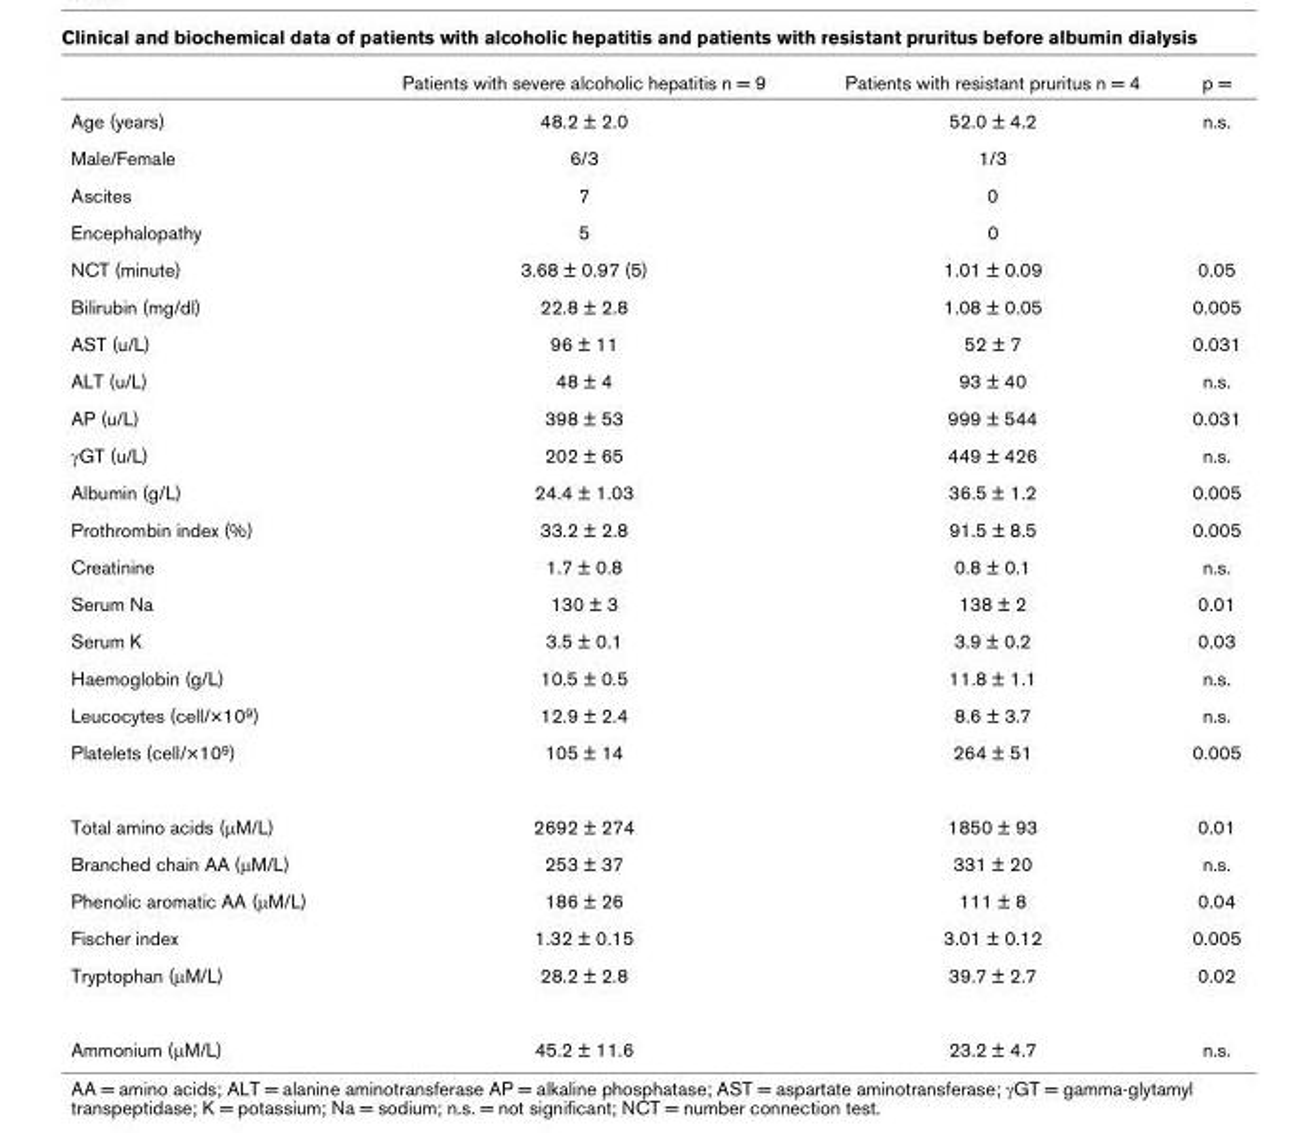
<table><thead><tr><td></td><td>Patients with severe alcoholic hepatitis n = 9</td><td>Patients with resistant pruritus n = 4</td><td>p =</td></tr></thead><tbody><tr><td>Age (years)</td><td>48.2 ± 2.0</td><td>52.0 ± 4.2</td><td>n.s.</td></tr><tr><td>Male/Female</td><td>6/3</td><td>1/3</td><td></td></tr><tr><td>Ascites</td><td>7</td><td>0</td><td></td></tr><tr><td>Encephalopathy</td><td>5</td><td>0</td><td></td></tr><tr><td>NCT (minute)</td><td>3.68 ± 0.97 (5)</td><td>1.01 ± 0.09</td><td>0.05</td></tr><tr><td>Bilirubin (mg/dl)</td><td>22.8 ± 2.8</td><td>1.08 ± 0.05</td><td>0.005</td></tr><tr><td>AST (u/L)</td><td>96 ± 11</td><td>52 ± 7</td><td>0.031</td></tr><tr><td>ALT (u/L)</td><td>48 ± 4</td><td>93 ± 40</td><td>n.s.</td></tr><tr><td>AP (u/L)</td><td>398 ± 53</td><td>999 ± 544</td><td>0.031</td></tr><tr><td>γGT (u/L)</td><td>202 ± 65</td><td>449 ± 426</td><td>n.s.</td></tr><tr><td>Albumin (g/L)</td><td>24.4 ± 1.03</td><td>36.5 ± 1.2</td><td>0.005</td></tr><tr><td>Prothrombin index (%)</td><td>33.2 ± 2.8</td><td>91.5 ± 8.5</td><td>0.005</td></tr><tr><td>Creatinine</td><td>1.7 ± 0.8</td><td>0.8 ± 0.1</td><td>n.s.</td></tr><tr><td>Serum Na</td><td>130 ± 3</td><td>138 ± 2</td><td>0.01</td></tr><tr><td>Serum K</td><td>3.5 ± 0.1</td><td>3.9 ± 0.2</td><td>0.03</td></tr><tr><td>Haemoglobin (g/L)</td><td>10.5 ± 0.5</td><td>11.8 ± 1.1</td><td>n.s.</td></tr><tr><td>Leucocytes (cell/×10<sup>9</sup>)</td><td>12.9 ± 2.4</td><td>8.6 ± 3.7</td><td>n.s.</td></tr><tr><td>Platelets (cell/×10<sup>9</sup>)</td><td>105 ± 14</td><td>264 ± 51</td><td>0.005</td></tr><tr><td>Total amino acids (μM/L)</td><td>2692 ± 274</td><td>1850 ± 93</td><td>0.01</td></tr><tr><td>Branched chain AA (μM/L)</td><td>253 ± 37</td><td>331 ± 20</td><td>n.s.</td></tr><tr><td>Phenolic aromatic AA (μM/L)</td><td>186 ± 26</td><td>111 ± 8</td><td>0.04</td></tr><tr><td>Fischer index</td><td>1.32 ± 0.15</td><td>3.01 ± 0.12</td><td>0.005</td></tr><tr><td>Tryptophan (μM/L)</td><td>28.2 ± 2.8</td><td>39.7 ± 2.7</td><td>0.02</td></tr><tr><td>Ammonium (μM/L)</td><td>45.2 ± 11.6</td><td>23.2 ± 4.7</td><td>n.s.</td></tr></tbody></table>